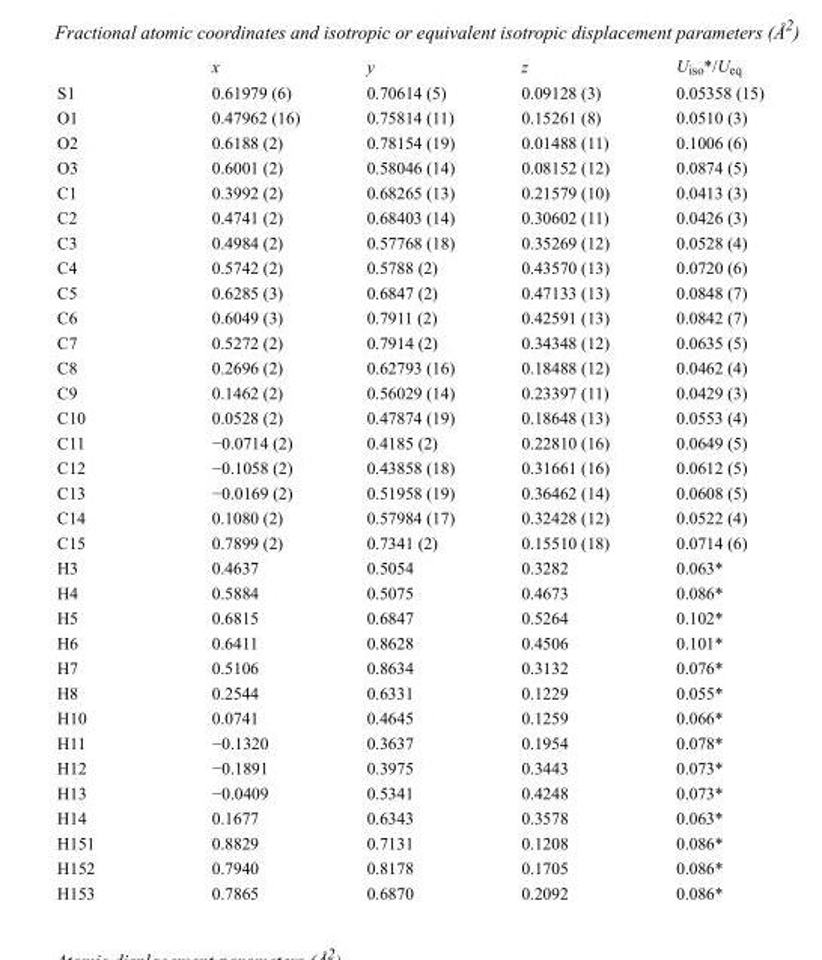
<table><thead><tr><td></td><td>x</td><td>y</td><td>z</td><td>U<sub>iso</sub>*/U<sub>eq</sub></td></tr></thead><tbody><tr><td>S1</td><td>0.61979 (6)</td><td>0.70614 (5)</td><td>0.09128 (3)</td><td>0.05358 (15)</td></tr><tr><td>O1</td><td>0.47962 (16)</td><td>0.75814 (11)</td><td>0.15261 (8)</td><td>0.0510 (3)</td></tr><tr><td>O2</td><td>0.6188 (2)</td><td>0.78154 (19)</td><td>0.01488 (11)</td><td>0.1006 (6)</td></tr><tr><td>O3</td><td>0.6001 (2)</td><td>0.58046 (14)</td><td>0.08152 (12)</td><td>0.0874 (5)</td></tr><tr><td>C1</td><td>0.3992 (2)</td><td>0.68265 (13)</td><td>0.21579 (10)</td><td>0.0413 (3)</td></tr><tr><td>C2</td><td>0.4741 (2)</td><td>0.68403 (14)</td><td>0.30602 (11)</td><td>0.0426 (3)</td></tr><tr><td>C3</td><td>0.4984 (2)</td><td>0.57768 (18)</td><td>0.35269 (12)</td><td>0.0528 (4)</td></tr><tr><td>C4</td><td>0.5742 (2)</td><td>0.5788 (2)</td><td>0.43570 (13)</td><td>0.0720 (6)</td></tr><tr><td>C5</td><td>0.6285 (3)</td><td>0.6847 (2)</td><td>0.47133 (13)</td><td>0.0848 (7)</td></tr><tr><td>C6</td><td>0.6049 (3)</td><td>0.7911 (2)</td><td>0.42591 (13)</td><td>0.0842 (7)</td></tr><tr><td>C7</td><td>0.5272 (2)</td><td>0.7914 (2)</td><td>0.34348 (12)</td><td>0.0635 (5)</td></tr><tr><td>C8</td><td>0.2696 (2)</td><td>0.62793 (16)</td><td>0.18488 (12)</td><td>0.0462 (4)</td></tr><tr><td>C9</td><td>0.1462 (2)</td><td>0.56029 (14)</td><td>0.23397 (11)</td><td>0.0429 (3)</td></tr><tr><td>C10</td><td>0.0528 (2)</td><td>0.47874 (19)</td><td>0.18648 (13)</td><td>0.0553 (4)</td></tr><tr><td>C11</td><td>−0.0714 (2)</td><td>0.4185 (2)</td><td>0.22810 (16)</td><td>0.0649 (5)</td></tr><tr><td>C12</td><td>−0.1058 (2)</td><td>0.43858 (18)</td><td>0.31661 (16)</td><td>0.0612 (5)</td></tr><tr><td>C13</td><td>−0.0169 (2)</td><td>0.51958 (19)</td><td>0.36462 (14)</td><td>0.0608 (5)</td></tr><tr><td>C14</td><td>0.1080 (2)</td><td>0.57984 (17)</td><td>0.32428 (12)</td><td>0.0522 (4)</td></tr><tr><td>C15</td><td>0.7899 (2)</td><td>0.7341 (2)</td><td>0.15510 (18)</td><td>0.0714 (6)</td></tr><tr><td>H3</td><td>0.4637</td><td>0.5054</td><td>0.3282</td><td>0.063*</td></tr><tr><td>H4</td><td>0.5884</td><td>0.5075</td><td>0.4673</td><td>0.086*</td></tr><tr><td>H5</td><td>0.6815</td><td>0.6847</td><td>0.5264</td><td>0.102*</td></tr><tr><td>H6</td><td>0.6411</td><td>0.8628</td><td>0.4506</td><td>0.101*</td></tr><tr><td>H7</td><td>0.5106</td><td>0.8634</td><td>0.3132</td><td>0.076*</td></tr><tr><td>H8</td><td>0.2544</td><td>0.6331</td><td>0.1229</td><td>0.055*</td></tr><tr><td>H10</td><td>0.0741</td><td>0.4645</td><td>0.1259</td><td>0.066*</td></tr><tr><td>H11</td><td>−0.1320</td><td>0.3637</td><td>0.1954</td><td>0.078*</td></tr><tr><td>H12</td><td>−0.1891</td><td>0.3975</td><td>0.3443</td><td>0.073*</td></tr><tr><td>H13</td><td>−0.0409</td><td>0.5341</td><td>0.4248</td><td>0.073*</td></tr><tr><td>H14</td><td>0.1677</td><td>0.6343</td><td>0.3578</td><td>0.063*</td></tr><tr><td>H151</td><td>0.8829</td><td>0.7131</td><td>0.1208</td><td>0.086*</td></tr><tr><td>H152</td><td>0.7940</td><td>0.8178</td><td>0.1705</td><td>0.086*</td></tr><tr><td>H153</td><td>0.7865</td><td>0.6870</td><td>0.2092</td><td>0.086*</td></tr></tbody></table>